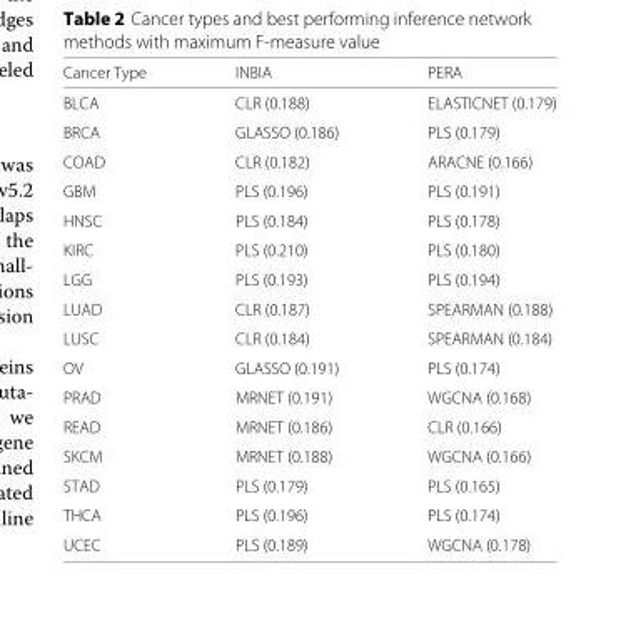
<table><thead><tr><td>Cancer Type</td><td>INBIA</td><td>PERA</td></tr></thead><tbody><tr><td>BLCA</td><td>CLR (0.188)</td><td>ELASTICNET (0.179)</td></tr><tr><td>BRCA</td><td>GLASSO (0.186)</td><td>PLS (0.179)</td></tr><tr><td>COAD</td><td>CLR (0.182)</td><td>ARACNE (0.166)</td></tr><tr><td>GBM</td><td>PLS (0.196)</td><td>PLS (0.191)</td></tr><tr><td>HNSC</td><td>PLS (0.184)</td><td>PLS (0.178)</td></tr><tr><td>KIRC</td><td>PLS (0.210)</td><td>PLS (0.180)</td></tr><tr><td>LGG</td><td>PLS (0.193)</td><td>PLS (0.194)</td></tr><tr><td>LUAD</td><td>CLR (0.187)</td><td>SPEARMAN (0.188)</td></tr><tr><td>LUSC</td><td>CLR (0.184)</td><td>SPEARMAN (0.184)</td></tr><tr><td>OV</td><td>GLASSO (0.191)</td><td>PLS (0.174)</td></tr><tr><td>PRAD</td><td>MRNET (0.191)</td><td>WGCNA (0.168)</td></tr><tr><td>READ</td><td>MRNET (0.186)</td><td>CLR (0.166)</td></tr><tr><td>SKCM</td><td>MRNET (0.188)</td><td>WGCNA (0.166)</td></tr><tr><td>STAD</td><td>PLS (0.179)</td><td>PLS (0.165)</td></tr><tr><td>THCA</td><td>PLS (0.196)</td><td>PLS (0.174)</td></tr><tr><td>UCEC</td><td>PLS (0.189)</td><td>WGCNA (0.178)</td></tr></tbody></table>